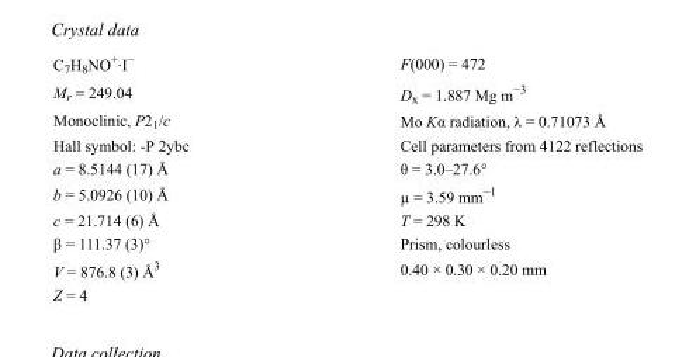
<table><tbody><tr><td>C<sub>7</sub>H<sub>8</sub>NO<sup>+</sup>·I<sup>−</sup></td><td>F(000) = 472</td></tr><tr><td>M<sub>r</sub> = 249.04</td><td>D<sub>x</sub> = 1.887 Mg m<sup>−3</sup></td></tr><tr><td>Monoclinic, P2<sub>1</sub>/c</td><td>Mo Kα radiation, λ = 0.71073 Å</td></tr><tr><td>Hall symbol: -P 2ybc</td><td>Cell parameters from 4122 reflections</td></tr><tr><td>a = 8.5144 (17) Å</td><td>θ = 3.0–27.6°</td></tr><tr><td>b = 5.0926 (10) Å</td><td>µ = 3.59 mm<sup>−1</sup></td></tr><tr><td>c = 21.714 (6) Å</td><td>T = 298 K</td></tr><tr><td>β = 111.37 (3)°</td><td>Prism, colourless</td></tr><tr><td>V = 876.8 (3) Å<sup>3</sup></td><td>0.40 × 0.30 × 0.20 mm</td></tr><tr><td>Z = 4</td><td></td></tr></tbody></table>